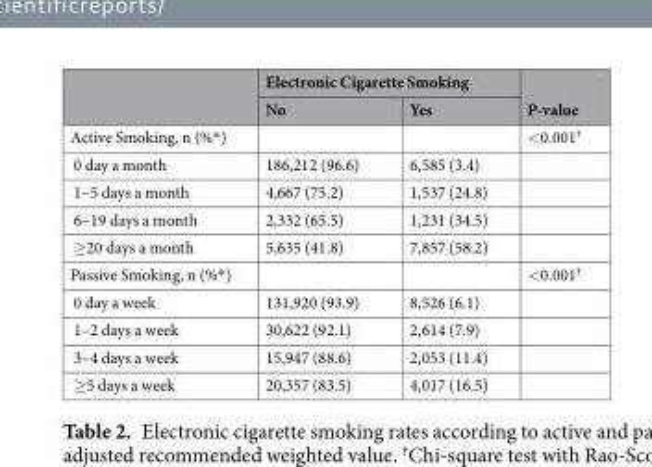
<table><thead><tr><td rowspan="2"></td><td colspan="2">Electronic Cigarette Smoking</td><td rowspan="2">P-value</td></tr><tr><td>No</td><td>Yes</td></tr></thead><tbody><tr><td>Active Smoking, n (%*)</td><td></td><td></td><td>&lt;0.001<sup>†</sup></td></tr><tr><td>0 day a month</td><td>186,212 (96.6)</td><td>6,585 (3.4)</td><td></td></tr><tr><td>1–5 days a month</td><td>4,667 (75.2)</td><td>1,537 (24.8)</td><td></td></tr><tr><td>6–19 days a month</td><td>2,332 (65.5)</td><td>1,231 (34.5)</td><td></td></tr><tr><td>≥20 days a month</td><td>5,635 (41.8)</td><td>7,857 (58.2)</td><td></td></tr><tr><td>Passive Smoking, n (%*)</td><td></td><td></td><td>&lt;0.001<sup>†</sup></td></tr><tr><td>0 day a week</td><td>131,920 (93.9)</td><td>8,526 (6.1)</td><td></td></tr><tr><td>1–2 days a week</td><td>30,622 (92.1)</td><td>2,614 (7.9)</td><td></td></tr><tr><td>3–4 days a week</td><td>15,947 (88.6)</td><td>2,053 (11.4)</td><td></td></tr><tr><td>≥5 days a week</td><td>20,357 (83.5)</td><td>4,017 (16.5)</td><td></td></tr></tbody></table>